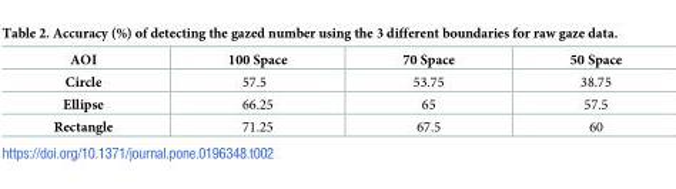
<table><thead><tr><td>AOI</td><td>100 Space</td><td>70 Space</td><td>50 Space</td></tr></thead><tbody><tr><td>Circle</td><td>57.5</td><td>53.75</td><td>38.75</td></tr><tr><td>Ellipse</td><td>66.25</td><td>65</td><td>57.5</td></tr><tr><td>Rectangle</td><td>71.25</td><td>67.5</td><td>60</td></tr></tbody></table>